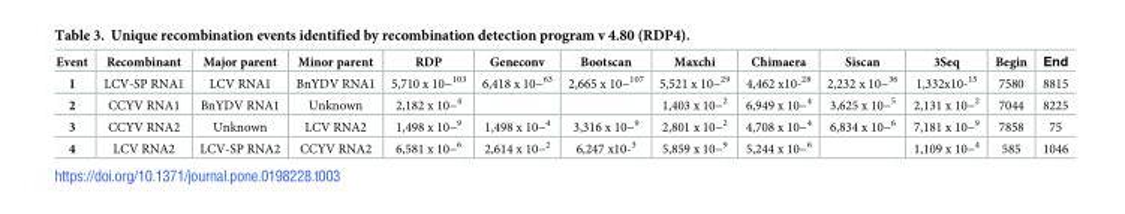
<table><thead><tr><td>Event</td><td>Recombinant</td><td>Major parent</td><td>Minor parent</td><td>RDP</td><td>Geneconv</td><td>Bootscan</td><td>Maxchi</td><td>Chimaera</td><td>Siscan</td><td>3Seq</td><td>Begin</td><td>End</td></tr></thead><tbody><tr><td>1</td><td>LCV-SP RNA1</td><td>LCV RNA1</td><td>BnYDV RNA1</td><td>5,710 x 10−<sup>103</sup></td><td>6,418 x 10−<sup>63</sup></td><td>2,665 x 10−<sup>107</sup></td><td>5,521 x 10−<sup>29</sup></td><td>4,462 x10-<sup>28</sup></td><td>2,232 x 10−<sup>36</sup></td><td>1,332x10-<sup>15</sup></td><td>7580</td><td>8815</td></tr><tr><td>2</td><td>CCYV RNA1</td><td>BnYDV RNA1</td><td>Unknown</td><td>2,182 x 10−<sup>4</sup></td><td></td><td></td><td>1,403 x 10−<sup>2</sup></td><td>6,949 x 10−<sup>4</sup></td><td>3,625 x 10−<sup>5</sup></td><td>2,131 x 10−<sup>2</sup></td><td>7044</td><td>8225</td></tr><tr><td>3</td><td>CCYV RNA2</td><td>Unknown</td><td>LCV RNA2</td><td>1,498 x 10−<sup>9</sup></td><td>1,498 x 10−<sup>4</sup></td><td>3,316 x 10−<sup>9</sup></td><td>2,801 x 10−<sup>2</sup></td><td>4,708 x 10−<sup>4</sup></td><td>6,834 x 10−<sup>6</sup></td><td>7,181 x 10−<sup>9</sup></td><td>7858</td><td>75</td></tr><tr><td>4</td><td>LCV RNA2</td><td>LCV-SP RNA2</td><td>CCYV RNA2</td><td>6,581 x 10−<sup>6</sup></td><td>2,614 x 10−<sup>2</sup></td><td>6,247 x10-<sup>3</sup></td><td>5,859 x 10−<sup>9</sup></td><td>5,244 x 10−<sup>6</sup></td><td></td><td>1,109 x 10−<sup>4</sup></td><td>585</td><td>1046</td></tr></tbody></table>